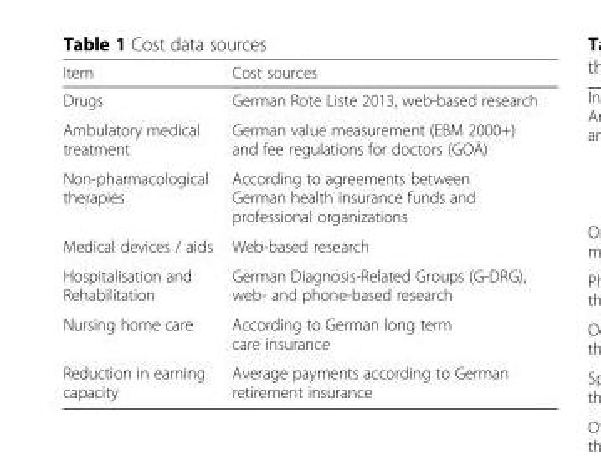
<table><thead><tr><td>Item</td><td>Cost sources</td></tr></thead><tbody><tr><td>Drugs</td><td>German Rote Liste 2013, web-based research</td></tr><tr><td>Ambulatory medical treatment</td><td>German value measurement (EBM 2000+) and fee regulations for doctors (GOÄ)</td></tr><tr><td>Non-pharmacological therapies</td><td>According to agreements between German health insurance funds and professional organizations</td></tr><tr><td>Medical devices / aids</td><td>Web-based research</td></tr><tr><td>Hospitalisation and Rehabilitation</td><td>German Diagnosis-Related Groups (G-DRG), web- and phone-based research</td></tr><tr><td>Nursing home care</td><td>According to German long term care insurance</td></tr><tr><td>Reduction in earning capacity</td><td>Average payments according to German retirement insurance</td></tr></tbody></table>